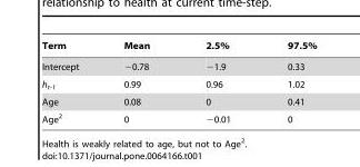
<table><thead><tr><td>Term</td><td>Mean</td><td>2.5%</td><td>97.5%</td></tr></thead><tbody><tr><td>Intercept</td><td>−0.78</td><td>−1.9</td><td>0.33</td></tr><tr><td>h<sub>t-1</sub></td><td>0.99</td><td>0.96</td><td>1.02</td></tr><tr><td>Age</td><td>0.08</td><td>0</td><td>0.41</td></tr><tr><td>Age<sup>2</sup></td><td>0</td><td>−0.01</td><td>0</td></tr></tbody></table>